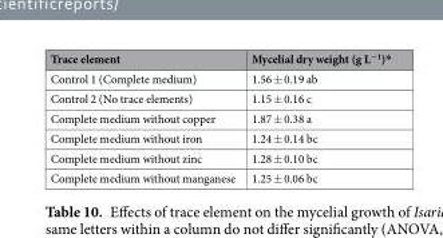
<table><thead><tr><td>Trace element</td><td>Mycelial dry weight (g L<sup>−1</sup>)*</td></tr></thead><tbody><tr><td>Control 1 (Complete medium)</td><td>1.56 ± 0.19 ab</td></tr><tr><td>Control 2 (No trace elements)</td><td>1.15 ± 0.16 c</td></tr><tr><td>Complete medium without copper</td><td>1.87 ± 0.38 a</td></tr><tr><td>Complete medium without iron</td><td>1.24 ± 0.14 bc</td></tr><tr><td>Complete medium without zinc</td><td>1.28 ± 0.10 bc</td></tr><tr><td>Complete medium without manganese</td><td>1.25 ± 0.06 bc</td></tr></tbody></table>